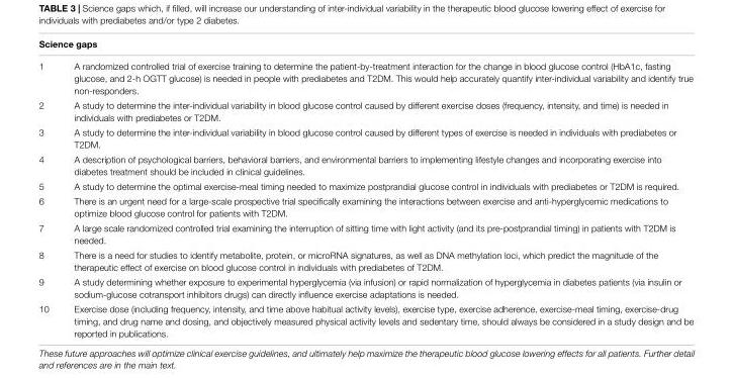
<table><thead><tr><td colspan="2">Science gaps</td></tr><tr><td>1</td><td>A randomized controlled trial of exercise training to determine the patient-by-treatment interaction for the change in blood glucose control (HbA1c, fasting glucose, and 2-h OGTT glucose) is needed in people with prediabetes and T2DM. This would help accurately quantify inter-individual variability and identify true non-responders.</td></tr></thead><tbody><tr><td>2</td><td>A study to determine the inter-individual variability in blood glucose control caused by different exercise doses (frequency, intensity, and time) is needed in individuals with prediabetes or T2DM.</td></tr><tr><td>3</td><td>A study to determine the inter-individual variability in blood glucose control caused by different types of exercise is needed in individuals with prediabetes or T2DM.</td></tr><tr><td>4</td><td>A description of psychological barriers, behavioral barriers, and environmental barriers to implementing lifestyle changes and incorporating exercise into diabetes treatment should be included in clinical guidelines.</td></tr><tr><td>5</td><td>A study to determine the optimal exercise-meal timing needed to maximize postprandial glucose control in individuals with prediabetes or T2DM is required.</td></tr><tr><td>6</td><td>There is an urgent need for a large-scale prospective trial specifically examining the interactions between exercise and anti-hyperglycemic medications to optimize blood glucose control for patients with T2DM.</td></tr><tr><td>7</td><td>A large scale randomized controlled trial examining the interruption of sitting time with light activity (and its pre-postprandial timing) in patients with T2DM is needed.</td></tr><tr><td>8</td><td>There is a need for studies to identify metabolite, protein, or microRNA signatures, as well as DNA methylation loci, which predict the magnitude of the therapeutic effect of exercise on blood glucose control in individuals with prediabetes of T2DM.</td></tr><tr><td>9</td><td>A study determining whether exposure to experimental hyperglycemia (via infusion) or rapid normalization of hyperglycemia in diabetes patients (via insulin or sodium-glucose cotransport inhibitors drugs) can directly influence exercise adaptations is needed.</td></tr><tr><td>10</td><td>Exercise dose (including frequency, intensity, and time above habitual activity levels), exercise type, exercise adherence, exercise-meal timing, exercise-drug timing, and drug name and dosing, and objectively measured physical activity levels and sedentary time, should always be considered in a study design and be reported in publications.</td></tr></tbody></table>